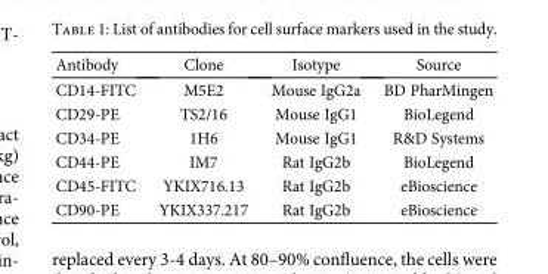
<table><thead><tr><td>Antibody</td><td>Clone</td><td>Isotype</td><td>Source</td></tr></thead><tbody><tr><td>CD14-FITC</td><td>M5E2</td><td>Mouse IgG2a</td><td>BD PharMingen</td></tr><tr><td>CD29-PE</td><td>TS2/16</td><td>Mouse IgG1</td><td>BioLegend</td></tr><tr><td>CD34-PE</td><td>1H6</td><td>Mouse IgG1</td><td>R&amp;D Systems</td></tr><tr><td>CD44-PE</td><td>IM7</td><td>Rat IgG2b</td><td>BioLegend</td></tr><tr><td>CD45-FITC</td><td>YKIX716.13</td><td>Rat IgG2b</td><td>eBioscience</td></tr><tr><td>CD90-PE</td><td>YKIX337.217</td><td>Rat IgG2b</td><td>eBioscience</td></tr></tbody></table>